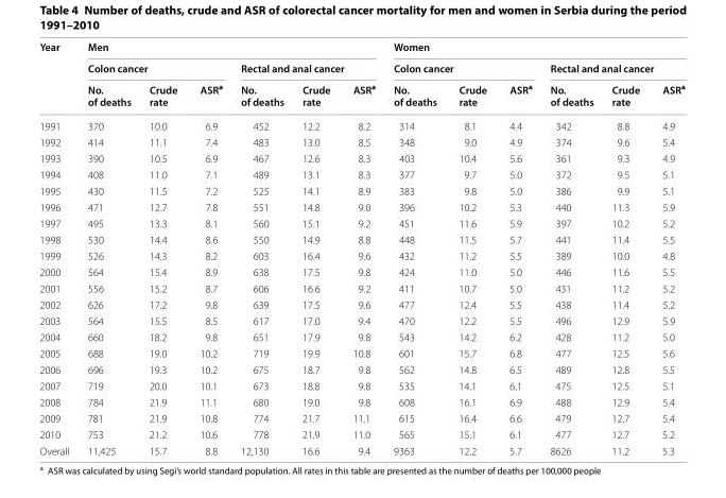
<table><thead><tr><td rowspan="3">Year</td><td colspan="6">Men</td><td colspan="6">Women</td></tr><tr><td colspan="3">Colon cancer</td><td colspan="3">Rectal and anal cancer</td><td colspan="3">Colon cancer</td><td colspan="3">Rectal and anal cancer</td></tr><tr><td>No. of deaths</td><td>Crude rate</td><td>ASR<sup>a</sup></td><td>No. of deaths</td><td>Crude rate</td><td>ASR<sup>a</sup></td><td>No. of deaths</td><td>Crude rate</td><td>ASR<sup>a</sup></td><td>No. of deaths</td><td>Crude rate</td><td>ASR<sup>a</sup></td></tr></thead><tbody><tr><td>1991</td><td>370</td><td>10.0</td><td>6.9</td><td>452</td><td>12.2</td><td>8.2</td><td>314</td><td>8.1</td><td>4.4</td><td>342</td><td>8.8</td><td>4.9</td></tr><tr><td>1992</td><td>414</td><td>11.1</td><td>7.4</td><td>483</td><td>13.0</td><td>8.5</td><td>348</td><td>9.0</td><td>4.9</td><td>374</td><td>9.6</td><td>5.4</td></tr><tr><td>1993</td><td>390</td><td>10.5</td><td>6.9</td><td>467</td><td>12.6</td><td>8.3</td><td>403</td><td>10.4</td><td>5.6</td><td>361</td><td>9.3</td><td>4.9</td></tr><tr><td>1994</td><td>408</td><td>11.0</td><td>7.1</td><td>489</td><td>13.1</td><td>8.3</td><td>377</td><td>9.7</td><td>5.0</td><td>372</td><td>9.5</td><td>5.1</td></tr><tr><td>1995</td><td>430</td><td>11.5</td><td>7.2</td><td>525</td><td>14.1</td><td>8.9</td><td>383</td><td>9.8</td><td>5.0</td><td>386</td><td>9.9</td><td>5.1</td></tr><tr><td>1996</td><td>471</td><td>12.7</td><td>7.8</td><td>551</td><td>14.8</td><td>9.0</td><td>396</td><td>10.2</td><td>5.3</td><td>440</td><td>11.3</td><td>5.9</td></tr><tr><td>1997</td><td>495</td><td>13.3</td><td>8.1</td><td>560</td><td>15.1</td><td>9.2</td><td>451</td><td>11.6</td><td>5.9</td><td>397</td><td>10.2</td><td>5.2</td></tr><tr><td>1998</td><td>530</td><td>14.4</td><td>8.6</td><td>550</td><td>14.9</td><td>8.8</td><td>448</td><td>11.5</td><td>5.7</td><td>441</td><td>11.4</td><td>5.5</td></tr><tr><td>1999</td><td>526</td><td>14.3</td><td>8.2</td><td>603</td><td>16.4</td><td>9.6</td><td>432</td><td>11.2</td><td>5.5</td><td>389</td><td>10.0</td><td>4.8</td></tr><tr><td>2000</td><td>564</td><td>15.4</td><td>8.9</td><td>638</td><td>17.5</td><td>9.8</td><td>424</td><td>11.0</td><td>5.0</td><td>446</td><td>11.6</td><td>5.5</td></tr><tr><td>2001</td><td>556</td><td>15.2</td><td>8.7</td><td>606</td><td>16.6</td><td>9.2</td><td>411</td><td>10.7</td><td>5.0</td><td>431</td><td>11.2</td><td>5.2</td></tr><tr><td>2002</td><td>626</td><td>17.2</td><td>9.8</td><td>639</td><td>17.5</td><td>9.6</td><td>477</td><td>12.4</td><td>5.5</td><td>438</td><td>11.4</td><td>5.2</td></tr><tr><td>2003</td><td>564</td><td>15.5</td><td>8.5</td><td>617</td><td>17.0</td><td>9.4</td><td>470</td><td>12.2</td><td>5.5</td><td>496</td><td>12.9</td><td>5.9</td></tr><tr><td>2004</td><td>660</td><td>18.2</td><td>9.8</td><td>651</td><td>17.9</td><td>9.8</td><td>543</td><td>14.2</td><td>6.2</td><td>428</td><td>11.2</td><td>5.0</td></tr><tr><td>2005</td><td>688</td><td>19.0</td><td>10.2</td><td>719</td><td>19.9</td><td>10.8</td><td>601</td><td>15.7</td><td>6.8</td><td>477</td><td>12.5</td><td>5.6</td></tr><tr><td>2006</td><td>696</td><td>19.3</td><td>10.2</td><td>675</td><td>18.7</td><td>9.8</td><td>562</td><td>14.8</td><td>6.5</td><td>489</td><td>12.8</td><td>5.5</td></tr><tr><td>2007</td><td>719</td><td>20.0</td><td>10.1</td><td>673</td><td>18.8</td><td>9.8</td><td>535</td><td>14.1</td><td>6.1</td><td>475</td><td>12.5</td><td>5.1</td></tr><tr><td>2008</td><td>784</td><td>21.9</td><td>11.1</td><td>680</td><td>19.0</td><td>9.8</td><td>608</td><td>16.1</td><td>6.9</td><td>488</td><td>12.9</td><td>5.4</td></tr><tr><td>2009</td><td>781</td><td>21.9</td><td>10.8</td><td>774</td><td>21.7</td><td>11.1</td><td>615</td><td>16.4</td><td>6.6</td><td>479</td><td>12.7</td><td>5.4</td></tr><tr><td>2010</td><td>753</td><td>21.2</td><td>10.6</td><td>778</td><td>21.9</td><td>11.0</td><td>565</td><td>15.1</td><td>6.1</td><td>477</td><td>12.7</td><td>5.2</td></tr><tr><td>Overall</td><td>11,425</td><td>15.7</td><td>8.8</td><td>12,130</td><td>16.6</td><td>9.4</td><td>9363</td><td>12.2</td><td>5.7</td><td>8626</td><td>11.2</td><td>5.3</td></tr></tbody></table>